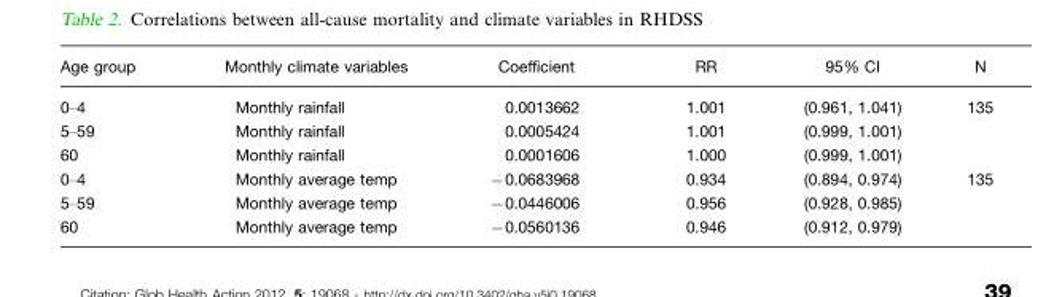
<table><thead><tr><td>Age group</td><td>Monthly climate variables</td><td>Coefficient</td><td>RR</td><td>95% CI</td><td>N</td></tr></thead><tbody><tr><td>0–4</td><td>Monthly rainfall</td><td>0.0013662</td><td>1.001</td><td>(0.961, 1.041)</td><td>135</td></tr><tr><td>5–59</td><td>Monthly rainfall</td><td>0.0005424</td><td>1.001</td><td>(0.999, 1.001)</td><td></td></tr><tr><td>60</td><td>Monthly rainfall</td><td>0.0001606</td><td>1.000</td><td>(0.999, 1.001)</td><td></td></tr><tr><td>0–4</td><td>Monthly average temp</td><td>−0.0683968</td><td>0.934</td><td>(0.894, 0.974)</td><td>135</td></tr><tr><td>5–59</td><td>Monthly average temp</td><td>−0.0446006</td><td>0.956</td><td>(0.928, 0.985)</td><td></td></tr><tr><td>60</td><td>Monthly average temp</td><td>−0.0560136</td><td>0.946</td><td>(0.912, 0.979)</td><td></td></tr></tbody></table>